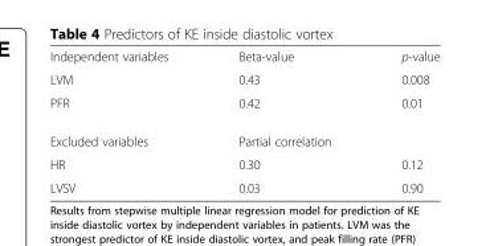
<table><tbody><tr><td>Independent variables</td><td>Beta-value</td><td>p-value</td></tr><tr><td>LVM</td><td>0.43</td><td>0.008</td></tr><tr><td>PFR</td><td>0.42</td><td>0.01</td></tr><tr><td>Excluded variables</td><td>Partial correlation</td><td></td></tr><tr><td>HR</td><td>0.30</td><td>0.12</td></tr><tr><td>LVSV</td><td>0.03</td><td>0.90</td></tr></tbody></table>